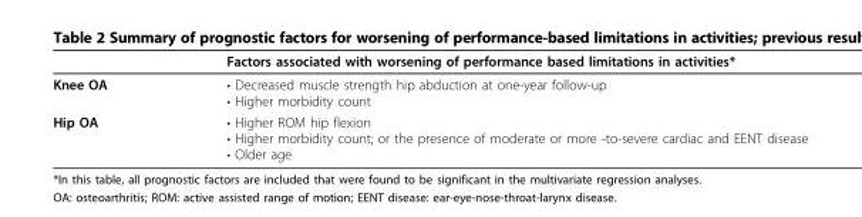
<table><thead><tr><td></td><td>Factors associated with worsening of performance based limitations in activities*</td></tr></thead><tbody><tr><td>Knee OA</td><td>• Decreased muscle strength hip abduction at one-year follow-up • Higher morbidity count</td></tr><tr><td>Hip OA</td><td>• Higher ROM hip flexion • Higher morbidity count; or the presence of moderate or more -to-severe cardiac and EENT disease • Older age</td></tr></tbody></table>